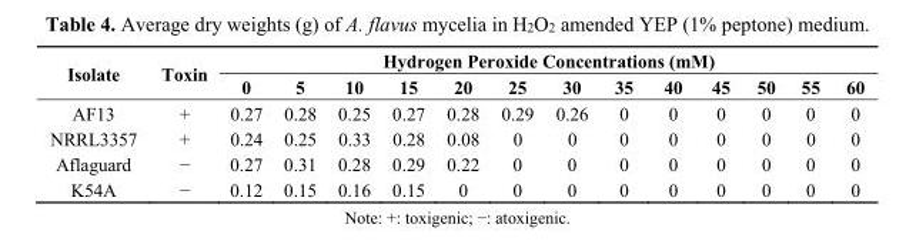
<table><thead><tr><td rowspan="2">Isolate</td><td rowspan="2">Toxin</td><td colspan="13">Hydrogen Peroxide Concentrations (mM)</td></tr><tr><td>0</td><td>5</td><td>10</td><td>15</td><td>20</td><td>25</td><td>30</td><td>35</td><td>40</td><td>45</td><td>50</td><td>55</td><td>60</td></tr></thead><tbody><tr><td>AF13</td><td>+</td><td>0.27</td><td>0.28</td><td>0.25</td><td>0.27</td><td>0.28</td><td>0.29</td><td>0.26</td><td>0</td><td>0</td><td>0</td><td>0</td><td>0</td><td>0</td></tr><tr><td>NRRL3357</td><td>+</td><td>0.24</td><td>0.25</td><td>0.33</td><td>0.28</td><td>0.08</td><td>0</td><td>0</td><td>0</td><td>0</td><td>0</td><td>0</td><td>0</td><td>0</td></tr><tr><td>Aflaguard</td><td>−</td><td>0.27</td><td>0.31</td><td>0.28</td><td>0.29</td><td>0.22</td><td>0</td><td>0</td><td>0</td><td>0</td><td>0</td><td>0</td><td>0</td><td>0</td></tr><tr><td>K54A</td><td>−</td><td>0.12</td><td>0.15</td><td>0.16</td><td>0.15</td><td>0</td><td>0</td><td>0</td><td>0</td><td>0</td><td>0</td><td>0</td><td>0</td><td>0</td></tr></tbody></table>